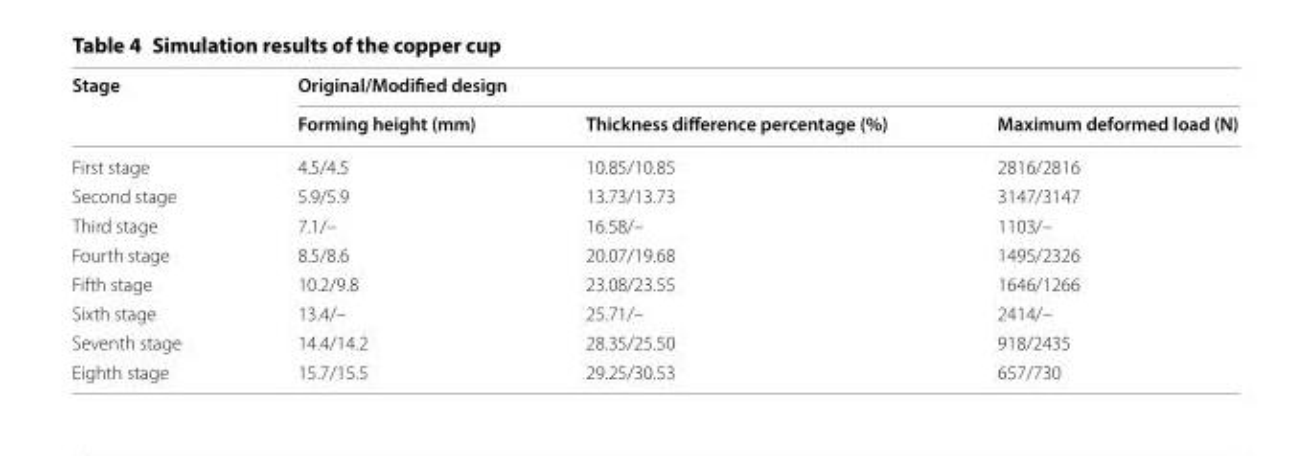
<table><thead><tr><td rowspan="2">Stage</td><td colspan="3">Original/Modified design</td></tr><tr><td>Forming height (mm)</td><td>Thickness difference percentage (%)</td><td>Maximum deformed load (N)</td></tr></thead><tbody><tr><td>First stage</td><td>4.5/4.5</td><td>10.85/10.85</td><td>2816/2816</td></tr><tr><td>Second stage</td><td>5.9/5.9</td><td>13.73/13.73</td><td>3147/3147</td></tr><tr><td>Third stage</td><td>7.1/–</td><td>16.58/–</td><td>1103/–</td></tr><tr><td>Fourth stage</td><td>8.5/8.6</td><td>20.07/19.68</td><td>1495/2326</td></tr><tr><td>Fifth stage</td><td>10.2/9.8</td><td>23.08/23.55</td><td>1646/1266</td></tr><tr><td>Sixth stage</td><td>13.4/–</td><td>25.71/–</td><td>2414/–</td></tr><tr><td>Seventh stage</td><td>14.4/14.2</td><td>28.35/25.50</td><td>918/2435</td></tr><tr><td>Eighth stage</td><td>15.7/15.5</td><td>29.25/30.53</td><td>657/730</td></tr></tbody></table>